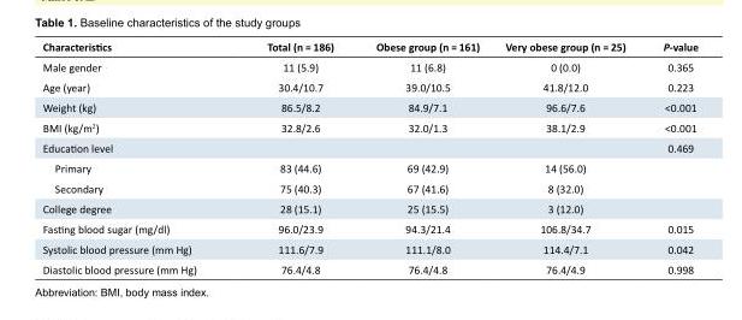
<table><tbody><tr><td>Characteristics</td><td>Total (n = 186)</td><td>Obese group (n = 161)</td><td>Very obese group (n = 25)</td><td>P-value</td></tr><tr><td>Male gender</td><td>11 (5.9)</td><td>11 (6.8)</td><td>0 (0.0)</td><td>0.365</td></tr><tr><td>Age (year)</td><td>30.4/10.7</td><td>39.0/10.5</td><td>41.8/12.0</td><td>0.223</td></tr><tr><td>Weight (kg)</td><td>86.5/8.2</td><td>84.9/7.1</td><td>96.6/7.6</td><td>&lt;0.001</td></tr><tr><td>BMI (kg/m<sup>2</sup>)</td><td>32.8/2.6</td><td>32.0/1.3</td><td>38.1/2.9</td><td>&lt;0.001</td></tr><tr><td>Education level</td><td></td><td></td><td></td><td>0.469</td></tr><tr><td>Primary</td><td>83 (44.6)</td><td>69 (42.9)</td><td>14 (56.0)</td><td></td></tr><tr><td>Secondary</td><td>75 (40.3)</td><td>67 (41.6)</td><td>8 (32.0)</td><td></td></tr><tr><td>College degree</td><td>28 (15.1)</td><td>25 (15.5)</td><td>3 (12.0)</td><td></td></tr><tr><td>Fasting blood sugar (mg/dl)</td><td>96.0/23.9</td><td>94.3/21.4</td><td>106.8/34.7</td><td>0.015</td></tr><tr><td>Systolic blood pressure (mm Hg)</td><td>111.6/7.9</td><td>111.1/8.0</td><td>114.4/7.1</td><td>0.042</td></tr><tr><td>Diastolic blood pressure (mm Hg)</td><td>76.4/4.8</td><td>76.4/4.8</td><td>76.4/4.9</td><td>0.998</td></tr></tbody></table>